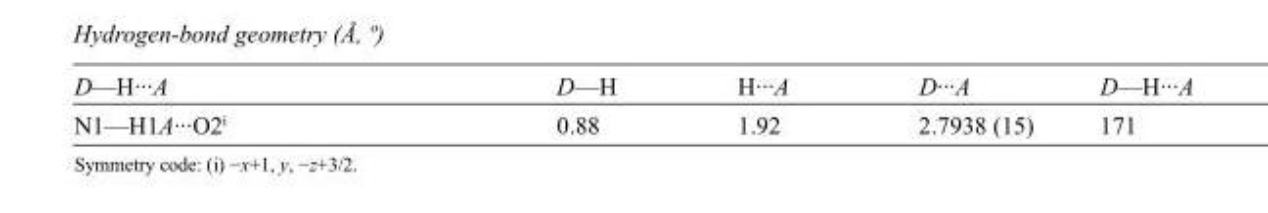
<table><tbody><tr><td>D—H···A</td><td>D—H</td><td>H···A</td><td>D···A</td><td>D—H···A</td></tr><tr><td>N1—H1A···O2<sup>i</sup></td><td>0.88</td><td>1.92</td><td>2.7938 (15)</td><td>171</td></tr></tbody></table>